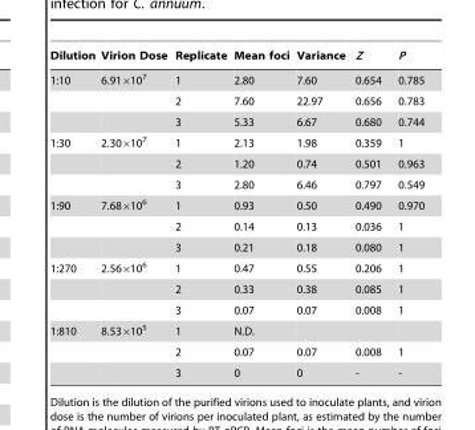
<table><thead><tr><td>Dilution</td><td>Virion Dose</td><td>Replicate</td><td>Mean foci</td><td>Variance</td><td>Z</td><td>P</td></tr></thead><tbody><tr><td rowspan="3">1:10</td><td>6.91×10<sup>7</sup></td><td>1</td><td>2.80</td><td>7.60</td><td>0.654</td><td>0.785</td></tr><tr><td></td><td>2</td><td>7.60</td><td>22.97</td><td>0.656</td><td>0.783</td></tr><tr><td></td><td>3</td><td>5.33</td><td>6.67</td><td>0.680</td><td>0.744</td></tr><tr><td rowspan="3">1:30</td><td>2.30×10<sup>7</sup></td><td>1</td><td>2.13</td><td>1.98</td><td>0.359</td><td>1</td></tr><tr><td></td><td>2</td><td>1.20</td><td>0.74</td><td>0.501</td><td>0.963</td></tr><tr><td></td><td>3</td><td>2.80</td><td>6.46</td><td>0.797</td><td>0.549</td></tr><tr><td rowspan="3">1:90</td><td>7.68×10<sup>6</sup></td><td>1</td><td>0.93</td><td>0.50</td><td>0.490</td><td>0.970</td></tr><tr><td></td><td>2</td><td>0.14</td><td>0.13</td><td>0.036</td><td>1</td></tr><tr><td></td><td>3</td><td>0.21</td><td>0.18</td><td>0.080</td><td>1</td></tr><tr><td rowspan="3">1:270</td><td>2.56×10<sup>6</sup></td><td>1</td><td>0.47</td><td>0.55</td><td>0.206</td><td>1</td></tr><tr><td></td><td>2</td><td>0.33</td><td>0.38</td><td>0.085</td><td>1</td></tr><tr><td></td><td>3</td><td>0.07</td><td>0.07</td><td>0.008</td><td>1</td></tr><tr><td rowspan="3">1:810</td><td>8.53×10<sup>5</sup></td><td>1</td><td>N.D.</td><td></td><td></td><td></td></tr><tr><td></td><td>2</td><td>0.07</td><td>0.07</td><td>0.008</td><td>1</td></tr><tr><td></td><td>3</td><td>0</td><td>0</td><td>-</td><td>-</td></tr></tbody></table>